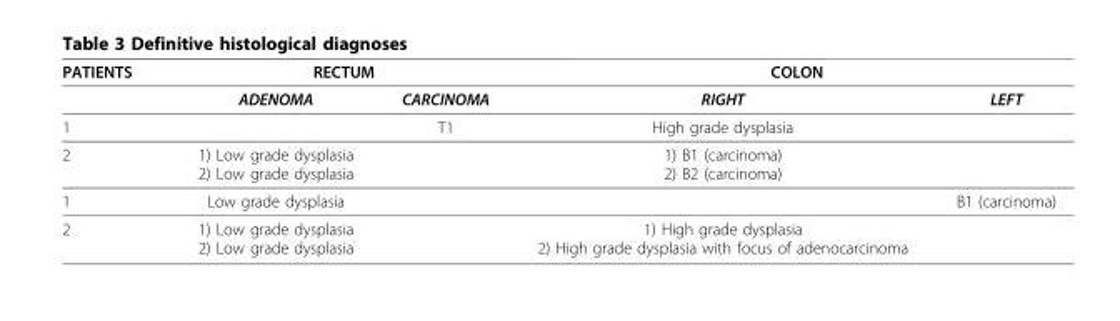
<table><thead><tr><td rowspan="2">PATIENTS</td><td colspan="2">RECTUM</td><td colspan="2">COLON</td></tr><tr><td>ADENOMA</td><td>CARCINOMA</td><td>RIGHT</td><td>LEFT</td></tr></thead><tbody><tr><td>1</td><td></td><td>T1</td><td>High grade dysplasia</td><td></td></tr><tr><td>2</td><td>1) Low grade dysplasia 2) Low grade dysplasia</td><td></td><td>1) B1 (carcinoma) 2) B2 (carcinoma)</td><td></td></tr><tr><td>1</td><td>Low grade dysplasia</td><td></td><td></td><td>B1 (carcinoma)</td></tr><tr><td>2</td><td>1) Low grade dysplasia 2) Low grade dysplasia</td><td></td><td>1) High grade dysplasia 2) High grade dysplasia with focus of adenocarcinoma</td><td></td></tr></tbody></table>